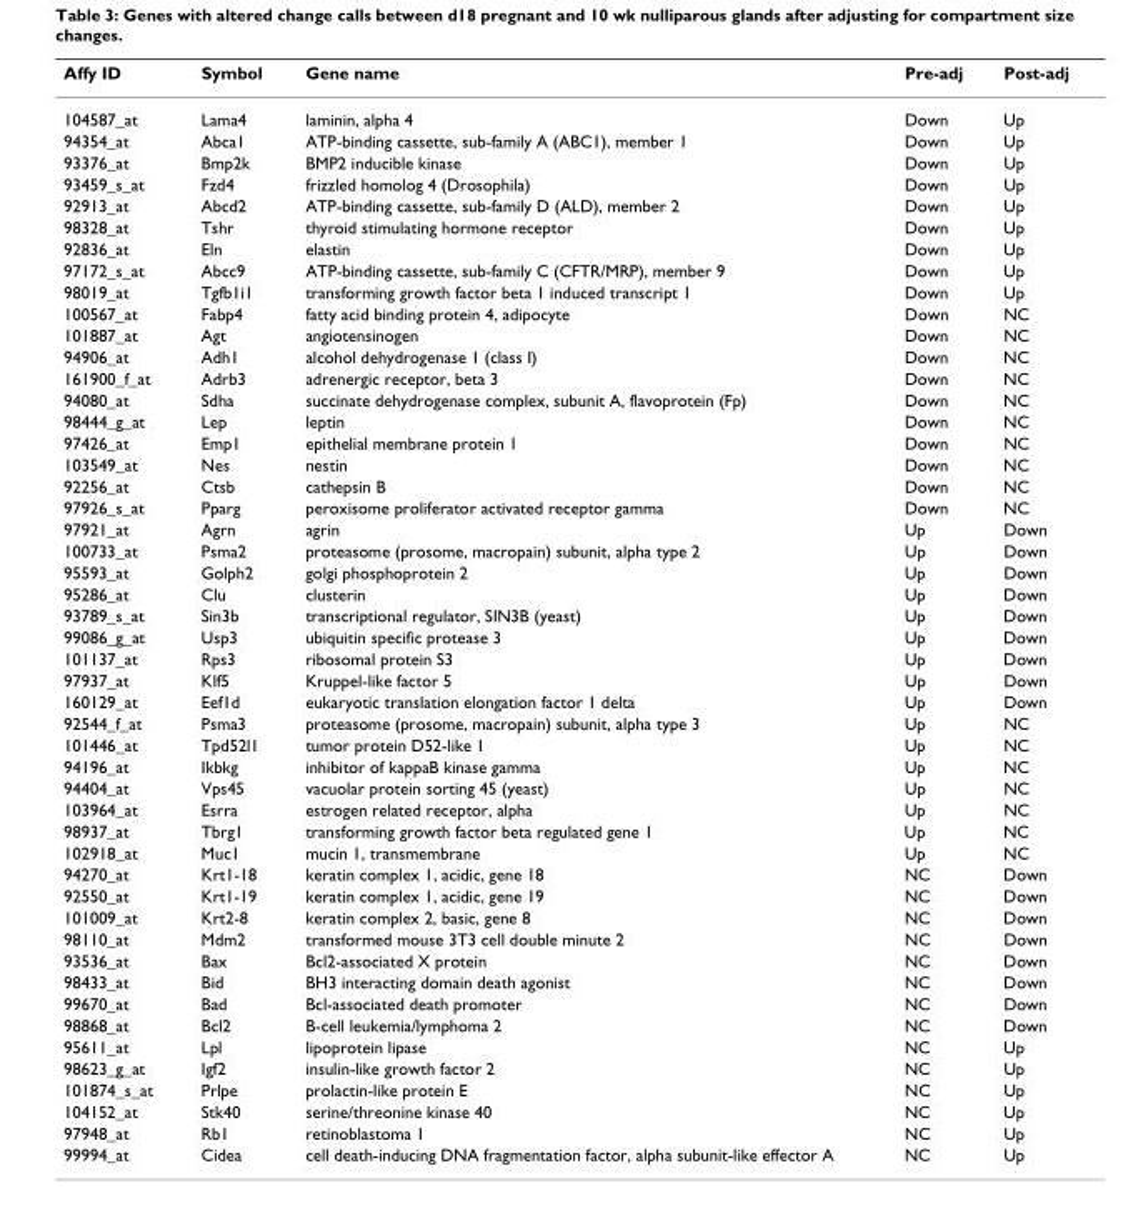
<table><thead><tr><td>Affy ID</td><td>Symbol</td><td>Gene name</td><td>Pre-adj</td><td>Post-adj</td></tr></thead><tbody><tr><td>104587_at</td><td>Lama4</td><td>laminin, alpha 4</td><td>Down</td><td>Up</td></tr><tr><td>94354_at</td><td>Abca1</td><td>ATP-binding cassette, sub-family A (ABC1), member 1</td><td>Down</td><td>Up</td></tr><tr><td>93376_at</td><td>Bmp2k</td><td>BMP2 inducible kinase</td><td>Down</td><td>Up</td></tr><tr><td>93459_s_at</td><td>Fzd4</td><td>frizzled homolog 4 (Drosophila)</td><td>Down</td><td>Up</td></tr><tr><td>92913_at</td><td>Abcd2</td><td>ATP-binding cassette, sub-family D (ALD), member 2</td><td>Down</td><td>Up</td></tr><tr><td>98328_at</td><td>Tshr</td><td>thyroid stimulating hormone receptor</td><td>Down</td><td>Up</td></tr><tr><td>92836_at</td><td>Eln</td><td>elastin</td><td>Down</td><td>Up</td></tr><tr><td>97172_s_at</td><td>Abcc9</td><td>ATP-binding cassette, sub-family C (CFTR/MRP), member 9</td><td>Down</td><td>Up</td></tr><tr><td>98019_at</td><td>Tgfb1i1</td><td>transforming growth factor beta 1 induced transcript 1</td><td>Down</td><td>Up</td></tr><tr><td>100567_at</td><td>Fabp4</td><td>fatty acid binding protein 4, adipocyte</td><td>Down</td><td>NC</td></tr><tr><td>101887_at</td><td>Agt</td><td>angiotensinogen</td><td>Down</td><td>NC</td></tr><tr><td>94906_at</td><td>Adh1</td><td>alcohol dehydrogenase 1 (class I)</td><td>Down</td><td>NC</td></tr><tr><td>161900_f_at</td><td>Adrb3</td><td>adrenergic receptor, beta 3</td><td>Down</td><td>NC</td></tr><tr><td>94080_at</td><td>Sdha</td><td>succinate dehydrogenase complex, subunit A, flavoprotein (Fp)</td><td>Down</td><td>NC</td></tr><tr><td>98444_g_at</td><td>Lep</td><td>leptin</td><td>Down</td><td>NC</td></tr><tr><td>97426_at</td><td>Emp1</td><td>epithelial membrane protein 1</td><td>Down</td><td>NC</td></tr><tr><td>103549_at</td><td>Nes</td><td>nestin</td><td>Down</td><td>NC</td></tr><tr><td>92256_at</td><td>Ctsb</td><td>cathepsin B</td><td>Down</td><td>NC</td></tr><tr><td>97926_s_at</td><td>Pparg</td><td>peroxisome proliferator activated receptor gamma</td><td>Down</td><td>NC</td></tr><tr><td>97921_at</td><td>Agrn</td><td>agrin</td><td>Up</td><td>Down</td></tr><tr><td>100733_at</td><td>Psma2</td><td>proteasome (prosome, macropain) subunit, alpha type 2</td><td>Up</td><td>Down</td></tr><tr><td>95593_at</td><td>Golph2</td><td>golgi phosphoprotein 2</td><td>Up</td><td>Down</td></tr><tr><td>95286_at</td><td>Clu</td><td>clusterin</td><td>Up</td><td>Down</td></tr><tr><td>93789_s_at</td><td>Sin3b</td><td>transcriptional regulator, SIN3B (yeast)</td><td>Up</td><td>Down</td></tr><tr><td>99086_g_at</td><td>Usp3</td><td>ubiquitin specific protease 3</td><td>Up</td><td>Down</td></tr><tr><td>101137_at</td><td>Rps3</td><td>ribosomal protein S3</td><td>Up</td><td>Down</td></tr><tr><td>97937_at</td><td>Klf5</td><td>Kruppel-like factor 5</td><td>Up</td><td>Down</td></tr><tr><td>160129_at</td><td>Eef1d</td><td>eukaryotic translation elongation factor 1 delta</td><td>Up</td><td>Down</td></tr><tr><td>92544_f_at</td><td>Psma3</td><td>proteasome (prosome, macropain) subunit, alpha type 3</td><td>Up</td><td>NC</td></tr><tr><td>101446_at</td><td>Tpd52l1</td><td>tumor protein D52-like 1</td><td>Up</td><td>NC</td></tr><tr><td>94196_at</td><td>Ikbkg</td><td>inhibitor of kappaB kinase gamma</td><td>Up</td><td>NC</td></tr><tr><td>94404_at</td><td>Vps45</td><td>vacuolar protein sorting 45 (yeast)</td><td>Up</td><td>NC</td></tr><tr><td>103964_at</td><td>Esrra</td><td>estrogen related receptor, alpha</td><td>Up</td><td>NC</td></tr><tr><td>98937_at</td><td>Tbrg1</td><td>transforming growth factor beta regulated gene 1</td><td>Up</td><td>NC</td></tr><tr><td>102918_at</td><td>Muc1</td><td>mucin 1, transmembrane</td><td>Up</td><td>NC</td></tr><tr><td>94270_at</td><td>Krt1-18</td><td>keratin complex 1, acidic, gene 18</td><td>NC</td><td>Down</td></tr><tr><td>92550_at</td><td>Krt1-19</td><td>keratin complex 1, acidic, gene 19</td><td>NC</td><td>Down</td></tr><tr><td>101009_at</td><td>Krt2-8</td><td>keratin complex 2, basic, gene 8</td><td>NC</td><td>Down</td></tr><tr><td>98110_at</td><td>Mdm2</td><td>transformed mouse 3T3 cell double minute 2</td><td>NC</td><td>Down</td></tr><tr><td>93536_at</td><td>Bax</td><td>Bcl2-associated X protein</td><td>NC</td><td>Down</td></tr><tr><td>98433_at</td><td>Bid</td><td>BH3 interacting domain death agonist</td><td>NC</td><td>Down</td></tr><tr><td>99670_at</td><td>Bad</td><td>Bcl-associated death promoter</td><td>NC</td><td>Down</td></tr><tr><td>98868_at</td><td>Bcl2</td><td>B-cell leukemia/lymphoma 2</td><td>NC</td><td>Down</td></tr><tr><td>95611_at</td><td>Lpl</td><td>lipoprotein lipase</td><td>NC</td><td>Up</td></tr><tr><td>98623_g_at</td><td>Igf2</td><td>insulin-like growth factor 2</td><td>NC</td><td>Up</td></tr><tr><td>101874_s_at</td><td>Prlpe</td><td>prolactin-like protein E</td><td>NC</td><td>Up</td></tr><tr><td>104152_at</td><td>Stk40</td><td>serine/threonine kinase 40</td><td>NC</td><td>Up</td></tr><tr><td>97948_at</td><td>Rb1</td><td>retinoblastoma 1</td><td>NC</td><td>Up</td></tr><tr><td>99994_at</td><td>Cidea</td><td>cell death-inducing DNA fragmentation factor, alpha subunit-like effector A</td><td>NC</td><td>Up</td></tr></tbody></table>